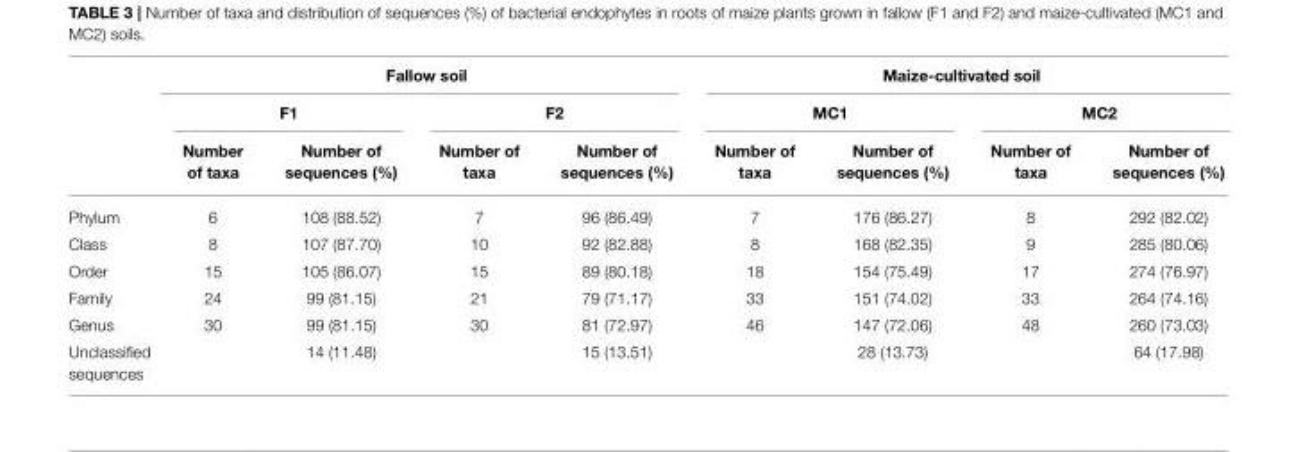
<table><thead><tr><td rowspan="3"></td><td colspan="4">Fallow soil</td><td colspan="4">Maize-cultivated soil</td></tr><tr><td colspan="2">F1</td><td colspan="2">F2</td><td colspan="2">MC1</td><td colspan="2">MC2</td></tr><tr><td>Number of taxa</td><td>Number of sequences (%)</td><td>Number of taxa</td><td>Number of sequences (%)</td><td>Number of taxa</td><td>Number of sequences (%)</td><td>Number of taxa</td><td>Number of sequences (%)</td></tr></thead><tbody><tr><td>Phylum</td><td>6</td><td>108 (88.52)</td><td>7</td><td>96 (86.49)</td><td>7</td><td>176 (86.27)</td><td>8</td><td>292 (82.02)</td></tr><tr><td>Class</td><td>8</td><td>107 (87.70)</td><td>10</td><td>92 (82.88)</td><td>8</td><td>168 (82.35)</td><td>9</td><td>285 (80.06)</td></tr><tr><td>Order</td><td>15</td><td>105 (86.07)</td><td>15</td><td>89 (80.18)</td><td>18</td><td>154 (75.49)</td><td>17</td><td>274 (76.97)</td></tr><tr><td>Family</td><td>24</td><td>99 (81.15)</td><td>21</td><td>79 (71.17)</td><td>33</td><td>151 (74.02)</td><td>33</td><td>264 (74.16)</td></tr><tr><td>Genus</td><td>30</td><td>99 (81.15)</td><td>30</td><td>81 (72.97)</td><td>46</td><td>147 (72.06)</td><td>48</td><td>260 (73.03)</td></tr><tr><td>Unclassified sequences</td><td></td><td>14 (11.48)</td><td></td><td>15 (13.51)</td><td></td><td>28 (13.73)</td><td></td><td>64 (17.98)</td></tr></tbody></table>